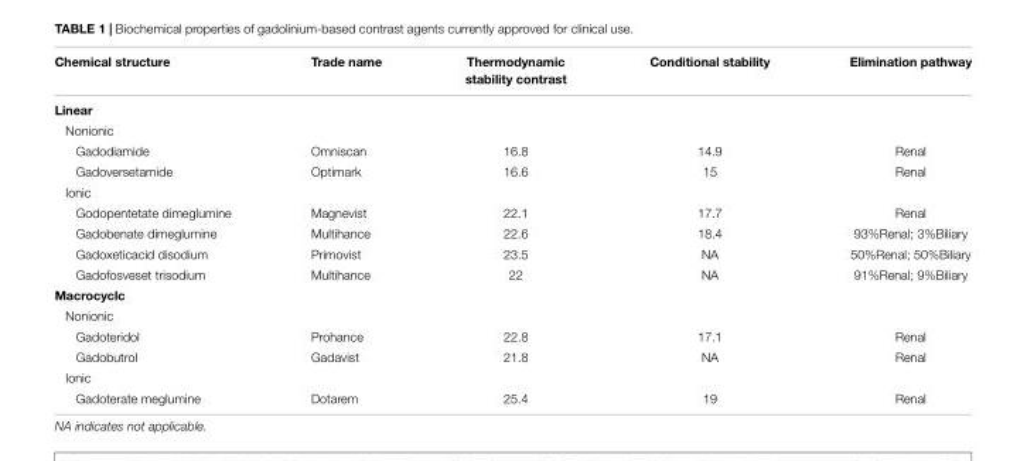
<table><thead><tr><td>Chemical structure</td><td>Trade name</td><td>Thermodynamic stability contrast</td><td>Conditional stability</td><td>Elimination pathway</td></tr></thead><tbody><tr><td colspan="5">Linear</td></tr><tr><td colspan="5">Nonionic</td></tr><tr><td>Gadodiamide</td><td>Omniscan</td><td>16.8</td><td>14.9</td><td>Renal</td></tr><tr><td>Gadoversetamide</td><td>Optimark</td><td>16.6</td><td>15</td><td>Renal</td></tr><tr><td colspan="5">Ionic</td></tr><tr><td>Godopentetate dimeglumine</td><td>Magnevist</td><td>22.1</td><td>17.7</td><td>Renal</td></tr><tr><td>Gadobenate dimeglumine</td><td>Multihance</td><td>22.6</td><td>18.4</td><td>93%Renal; 3%Biliary</td></tr><tr><td>Gadoxeticacid disodium</td><td>Primovist</td><td>23.5</td><td>NA</td><td>50%Renal; 50%Biliary</td></tr><tr><td>Gadofosveset trisodium</td><td>Multihance</td><td>22</td><td>NA</td><td>91%Renal; 9%Biliary</td></tr><tr><td colspan="5">Macrocyclc</td></tr><tr><td colspan="5">Nonionic</td></tr><tr><td>Gadoteridol</td><td>Prohance</td><td>22.8</td><td>17.1</td><td>Renal</td></tr><tr><td>Gadobutrol</td><td>Gadavist</td><td>21.8</td><td>NA</td><td>Renal</td></tr><tr><td colspan="5">Ionic</td></tr><tr><td>Gadoterate meglumine</td><td>Dotarem</td><td>25.4</td><td>19</td><td>Renal</td></tr></tbody></table>